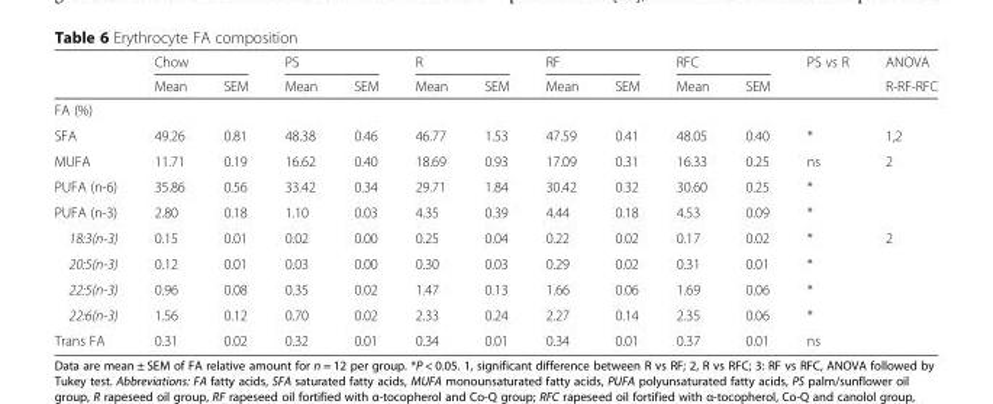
<table><thead><tr><td rowspan="2"></td><td colspan="2">Chow</td><td colspan="2">PS</td><td colspan="2">R</td><td colspan="2">RF</td><td colspan="2">RFC</td><td rowspan="2">PS vs R</td><td rowspan="2">ANOVA R-RF-RFC</td></tr><tr><td>Mean</td><td>SEM</td><td>Mean</td><td>SEM</td><td>Mean</td><td>SEM</td><td>Mean</td><td>SEM</td><td>Mean</td><td>SEM</td></tr></thead><tbody><tr><td colspan="13">FA (%)</td></tr><tr><td>SFA</td><td>49.26</td><td>0.81</td><td>48.38</td><td>0.46</td><td>46.77</td><td>1.53</td><td>47.59</td><td>0.41</td><td>48.05</td><td>0.40</td><td>*</td><td>1,2</td></tr><tr><td>MUFA</td><td>11.71</td><td>0.19</td><td>16.62</td><td>0.40</td><td>18.69</td><td>0.93</td><td>17.09</td><td>0.31</td><td>16.33</td><td>0.25</td><td>ns</td><td>2</td></tr><tr><td>PUFA (n-6)</td><td>35.86</td><td>0.56</td><td>33.42</td><td>0.34</td><td>29.71</td><td>1.84</td><td>30.42</td><td>0.32</td><td>30.60</td><td>0.25</td><td>*</td><td></td></tr><tr><td>PUFA (n-3)</td><td>2.80</td><td>0.18</td><td>1.10</td><td>0.03</td><td>4.35</td><td>0.39</td><td>4.44</td><td>0.18</td><td>4.53</td><td>0.09</td><td>*</td><td></td></tr><tr><td>18:3(n-3)</td><td>0.15</td><td>0.01</td><td>0.02</td><td>0.00</td><td>0.25</td><td>0.04</td><td>0.22</td><td>0.02</td><td>0.17</td><td>0.02</td><td>*</td><td>2</td></tr><tr><td>20:5(n-3)</td><td>0.12</td><td>0.01</td><td>0.03</td><td>0.00</td><td>0.30</td><td>0.03</td><td>0.29</td><td>0.02</td><td>0.31</td><td>0.01</td><td>*</td><td></td></tr><tr><td>22:5(n-3)</td><td>0.96</td><td>0.08</td><td>0.35</td><td>0.02</td><td>1.47</td><td>0.13</td><td>1.66</td><td>0.06</td><td>1.69</td><td>0.06</td><td>*</td><td></td></tr><tr><td>22:6(n-3)</td><td>1.56</td><td>0.12</td><td>0.70</td><td>0.02</td><td>2.33</td><td>0.24</td><td>2.27</td><td>0.14</td><td>2.35</td><td>0.06</td><td>*</td><td></td></tr><tr><td>Trans FA</td><td>0.31</td><td>0.02</td><td>0.32</td><td>0.01</td><td>0.34</td><td>0.01</td><td>0.34</td><td>0.01</td><td>0.37</td><td>0.01</td><td>ns</td><td></td></tr></tbody></table>